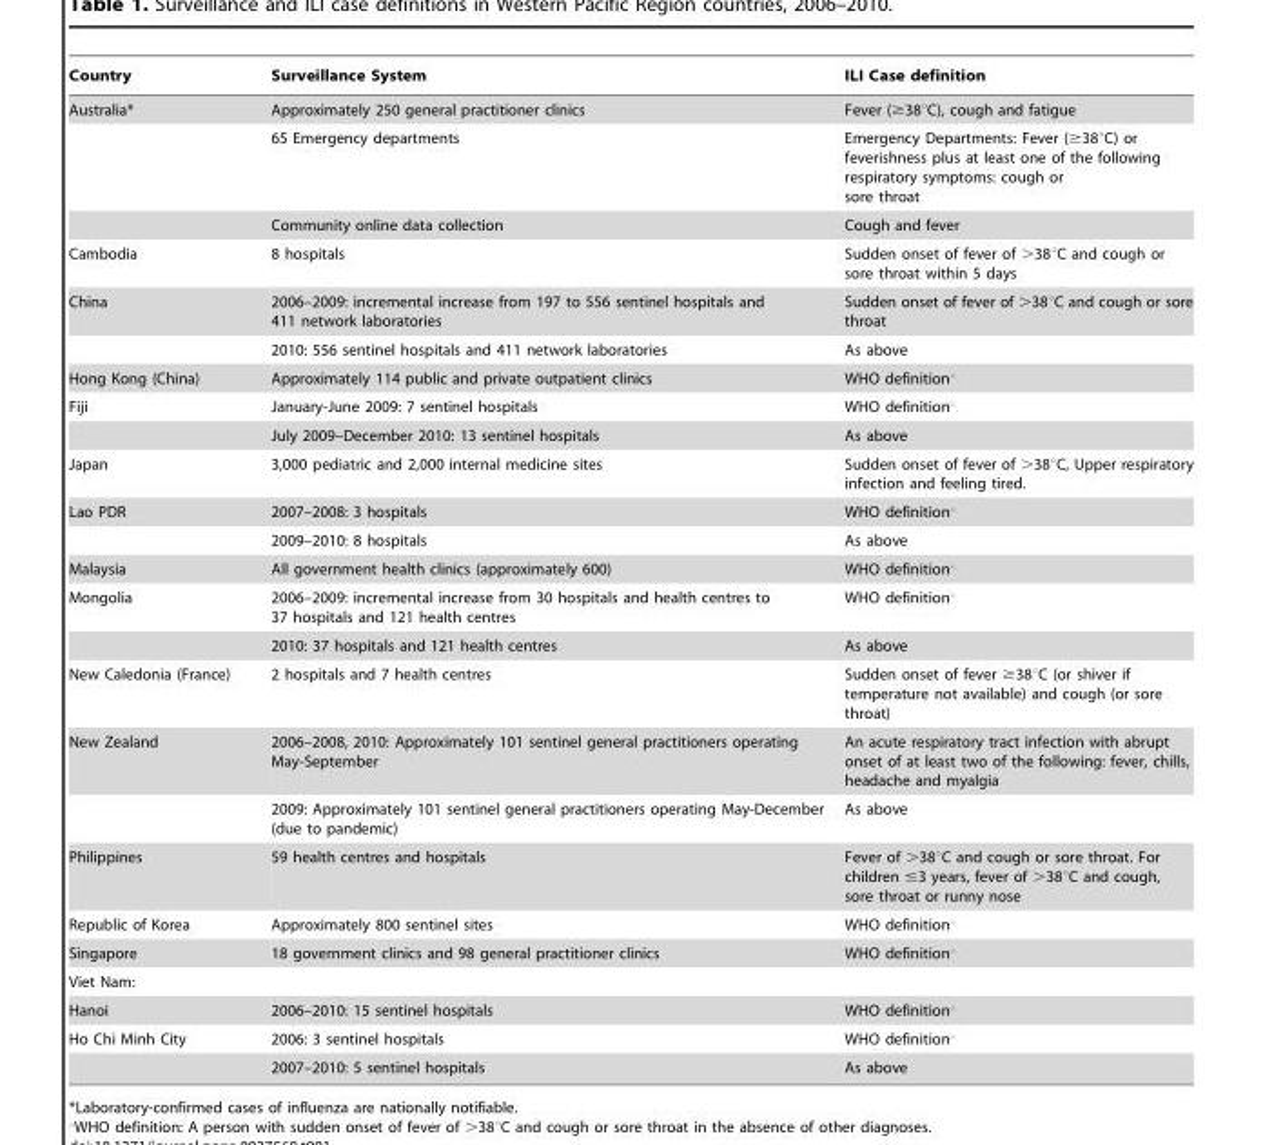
<table><thead><tr><td>Country</td><td>Surveillance System</td><td>ILI Case definition</td></tr></thead><tbody><tr><td rowspan="3">Australia*</td><td>Approximately 250 general practitioner clinics</td><td>Fever (≥38°C), cough and fatigue</td></tr><tr><td>65 Emergency departments</td><td>Emergency Departments: Fever (≥38°C) or feverishness plus at least one of the following respiratory symptoms: cough or sore throat</td></tr><tr><td>Community online data collection</td><td>Cough and fever</td></tr><tr><td>Cambodia</td><td>8 hospitals</td><td>Sudden onset of fever of &gt;38°C and cough or sore throat within 5 days</td></tr><tr><td rowspan="2">China</td><td>2006–2009: incremental increase from 197 to 556 sentinel hospitals and 411 network laboratories</td><td>Sudden onset of fever of &gt;38°C and cough or sore throat</td></tr><tr><td>2010: 556 sentinel hospitals and 411 network laboratories</td><td>As above</td></tr><tr><td>Hong Kong (China)</td><td>Approximately 114 public and private outpatient clinics</td><td>WHO definition‘</td></tr><tr><td rowspan="2">Fiji</td><td>January-June 2009: 7 sentinel hospitals</td><td>WHO definition‘</td></tr><tr><td>July 2009–December 2010: 13 sentinel hospitals</td><td>As above</td></tr><tr><td>Japan</td><td>3,000 pediatric and 2,000 internal medicine sites</td><td>Sudden onset of fever of &gt;38°C, Upper respiratory infection and feeling tired.</td></tr><tr><td rowspan="2">Lao PDR</td><td>2007–2008: 3 hospitals</td><td>WHO definition‘</td></tr><tr><td>2009–2010: 8 hospitals</td><td>As above</td></tr><tr><td>Malaysia</td><td>All government health clinics (approximately 600)</td><td>WHO definition‘</td></tr><tr><td rowspan="2">Mongolia</td><td>2006–2009: incremental increase from 30 hospitals and health centres to 37 hospitals and 121 health centres</td><td>WHO definition‘</td></tr><tr><td>2010: 37 hospitals and 121 health centres</td><td>As above</td></tr><tr><td>New Caledonia (France)</td><td>2 hospitals and 7 health centres</td><td>Sudden onset of fever ≥38°C (or shiver if temperature not available) and cough (or sore throat)</td></tr><tr><td rowspan="2">New Zealand</td><td>2006–2008, 2010: Approximately 101 sentinel general practitioners operating May-September</td><td>An acute respiratory tract infection with abrupt onset of at least two of the following: fever, chills, headache and myalgia</td></tr><tr><td>2009: Approximately 101 sentinel general practitioners operating May-December (due to pandemic)</td><td>As above</td></tr><tr><td>Philippines</td><td>59 health centres and hospitals</td><td>Fever of &gt;38°C and cough or sore throat. For children ≤3 years, fever of &gt;38°C and cough, sore throat or runny nose</td></tr><tr><td>Republic of Korea</td><td>Approximately 800 sentinel sites</td><td>WHO definition‘</td></tr><tr><td>Singapore</td><td>18 government clinics and 98 general practitioner clinics</td><td>WHO definition‘</td></tr><tr><td colspan="3">Viet Nam:</td></tr><tr><td>Hanoi</td><td>2006–2010: 15 sentinel hospitals</td><td>WHO definition‘</td></tr><tr><td rowspan="2">Ho Chi Minh City</td><td>2006: 3 sentinel hospitals</td><td>WHO definition‘</td></tr><tr><td>2007–2010: 5 sentinel hospitals</td><td>As above</td></tr></tbody></table>